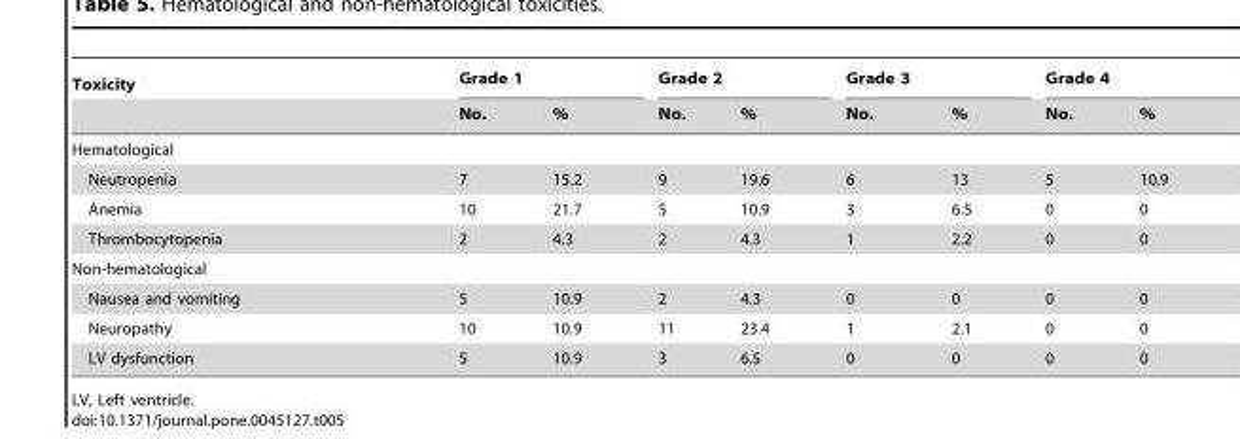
<table><thead><tr><td rowspan="2">Toxicity</td><td colspan="2">Grade 1</td><td colspan="2">Grade 2</td><td colspan="2">Grade 3</td><td colspan="2">Grade 4</td></tr><tr><td>No.</td><td>%</td><td>No.</td><td>%</td><td>No.</td><td>%</td><td>No.</td><td>%</td></tr></thead><tbody><tr><td colspan="9">Hematological</td></tr><tr><td>Neutropenia</td><td>7</td><td>15.2</td><td>9</td><td>19.6</td><td>6</td><td>13</td><td>5</td><td>10.9</td></tr><tr><td>Anemia</td><td>10</td><td>21.7</td><td>5</td><td>10.9</td><td>3</td><td>6.5</td><td>0</td><td>0</td></tr><tr><td>Thrombocytopenia</td><td>2</td><td>4.3</td><td>2</td><td>4.3</td><td>1</td><td>2.2</td><td>0</td><td>0</td></tr><tr><td colspan="9">Non-hematological</td></tr><tr><td>Nausea and vomiting</td><td>5</td><td>10.9</td><td>2</td><td>4.3</td><td>0</td><td>0</td><td>0</td><td>0</td></tr><tr><td>Neuropathy</td><td>10</td><td>10.9</td><td>11</td><td>23.4</td><td>1</td><td>2.1</td><td>0</td><td>0</td></tr><tr><td>LV dysfunction</td><td>5</td><td>10.9</td><td>3</td><td>6.5</td><td>0</td><td>0</td><td>0</td><td>0</td></tr></tbody></table>